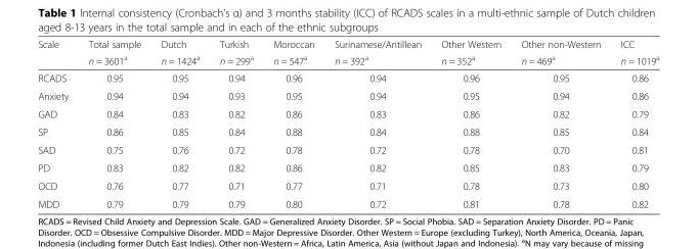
<table><thead><tr><td rowspan="2">Scale</td><td rowspan="2">Total sample n = 3601<sup>a</sup></td><td rowspan="2">Dutch n = 1424<sup>a</sup></td><td rowspan="2">Turkish n = 299<sup>a</sup></td><td rowspan="2">Moroccan n = 547<sup>a</sup></td><td rowspan="2">Surinamese/Antillean n = 392<sup>a</sup></td><td rowspan="2">Other Western n = 352<sup>a</sup></td><td rowspan="2">Other non-Western n = 469<sup>a</sup></td><td rowspan="2">ICC n = 1019<sup>a</sup></td></tr><tr></tr></thead><tbody><tr><td>RCADS</td><td>0.95</td><td>0.95</td><td>0.94</td><td>0.96</td><td>0.94</td><td>0.96</td><td>0.95</td><td>0.86</td></tr><tr><td>Anxiety</td><td>0.94</td><td>0.94</td><td>0.93</td><td>0.95</td><td>0.94</td><td>0.95</td><td>0.94</td><td>0.86</td></tr><tr><td>GAD</td><td>0.84</td><td>0.83</td><td>0.82</td><td>0.86</td><td>0.83</td><td>0.86</td><td>0.82</td><td>0.79</td></tr><tr><td>SP</td><td>0.86</td><td>0.85</td><td>0.84</td><td>0.88</td><td>0.84</td><td>0.88</td><td>0.85</td><td>0.84</td></tr><tr><td>SAD</td><td>0.75</td><td>0.76</td><td>0.72</td><td>0.78</td><td>0.72</td><td>0.78</td><td>0.70</td><td>0.81</td></tr><tr><td>PD</td><td>0.83</td><td>0.82</td><td>0.82</td><td>0.86</td><td>0.82</td><td>0.85</td><td>0.83</td><td>0.79</td></tr><tr><td>OCD</td><td>0.76</td><td>0.77</td><td>0.71</td><td>0.77</td><td>0.71</td><td>0.78</td><td>0.73</td><td>0.80</td></tr><tr><td>MDD</td><td>0.79</td><td>0.79</td><td>0.79</td><td>0.80</td><td>0.72</td><td>0.81</td><td>0.78</td><td>0.82</td></tr></tbody></table>